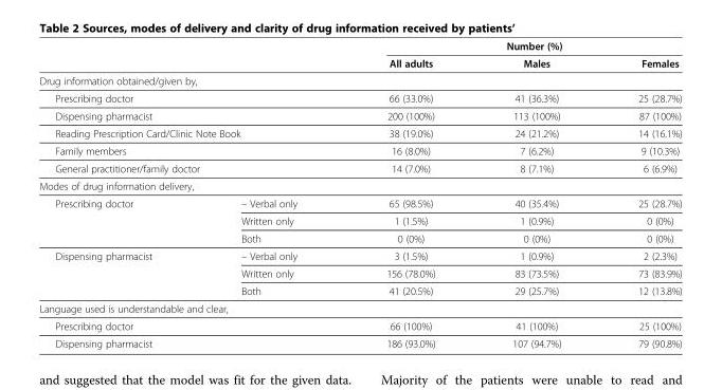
<table><thead><tr><td rowspan="2"></td><td rowspan="2"></td><td colspan="3">Number (%)</td></tr><tr><td>All adults</td><td>Males</td><td>Females</td></tr></thead><tbody><tr><td colspan="5">Drug information obtained/given by,</td></tr><tr><td colspan="2">Prescribing doctor</td><td>66 (33.0%)</td><td>41 (36.3%)</td><td>25 (28.7%)</td></tr><tr><td colspan="2">Dispensing pharmacist</td><td>200 (100%)</td><td>113 (100%)</td><td>87 (100%)</td></tr><tr><td colspan="2">Reading Prescription Card/Clinic Note Book</td><td>38 (19.0%)</td><td>24 (21.2%)</td><td>14 (16.1%)</td></tr><tr><td colspan="2">Family members</td><td>16 (8.0%)</td><td>7 (6.2%)</td><td>9 (10.3%)</td></tr><tr><td colspan="2">General practitioner/family doctor</td><td>14 (7.0%)</td><td>8 (7.1%)</td><td>6 (6.9%)</td></tr><tr><td colspan="5">Modes of drug information delivery,</td></tr><tr><td rowspan="3">Prescribing doctor</td><td>– Verbal only</td><td>65 (98.5%)</td><td>40 (35.4%)</td><td>25 (28.7%)</td></tr><tr><td>Written only</td><td>1 (1.5%)</td><td>1 (0.9%)</td><td>0 (0%)</td></tr><tr><td>Both</td><td>0 (0%)</td><td>0 (0%)</td><td>0 (0%)</td></tr><tr><td rowspan="3">Dispensing pharmacist</td><td>– Verbal only</td><td>3 (1.5%)</td><td>1 (0.9%)</td><td>2 (2.3%)</td></tr><tr><td>Written only</td><td>156 (78.0%)</td><td>83 (73.5%)</td><td>73 (83.9%)</td></tr><tr><td>Both</td><td>41 (20.5%)</td><td>29 (25.7%)</td><td>12 (13.8%)</td></tr><tr><td colspan="5">Language used is understandable and clear,</td></tr><tr><td colspan="2">Prescribing doctor</td><td>66 (100%)</td><td>41 (100%)</td><td>25 (100%)</td></tr><tr><td colspan="2">Dispensing pharmacist</td><td>186 (93.0%)</td><td>107 (94.7%)</td><td>79 (90.8%)</td></tr></tbody></table>